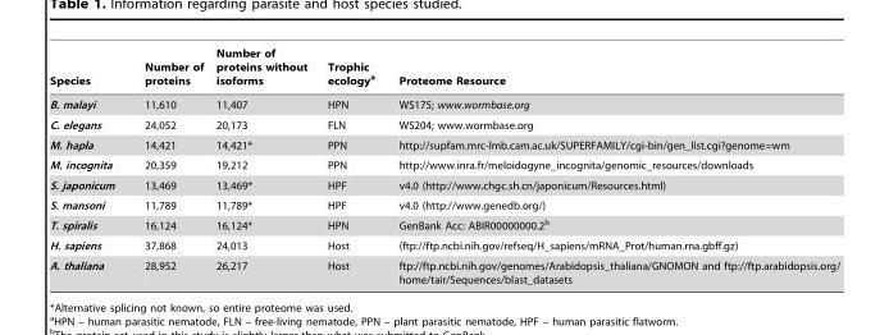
<table><thead><tr><td>Species</td><td>Number of proteins</td><td>Number of proteins without isoforms</td><td>Trophic ecology<sup>a</sup></td><td>Proteome Resource</td></tr></thead><tbody><tr><td>B. malayi</td><td>11,610</td><td>11,407</td><td>HPN</td><td>WS175; www.wormbase.org</td></tr><tr><td>C. elegans</td><td>24,052</td><td>20,173</td><td>FLN</td><td>WS204; www.wormbase.org</td></tr><tr><td>M. hapla</td><td>14,421</td><td>14,421*</td><td>PPN</td><td>http://supfam.mrc-lmb.cam.ac.uk/SUPERFAMILY/cgi-bin/gen_list.cgi?genome=wm</td></tr><tr><td>M. incognita</td><td>20,359</td><td>19,212</td><td>PPN</td><td>http://www.inra.fr/meloidogyne_incognita/genomic_resources/downloads</td></tr><tr><td>S. japonicum</td><td>13,469</td><td>13,469*</td><td>HPF</td><td>v4.0 (http://www.chgc.sh.cn/japonicum/Resources.html)</td></tr><tr><td>S. mansoni</td><td>11,789</td><td>11,789*</td><td>HPF</td><td>v4.0 (http://www.genedb.org/)</td></tr><tr><td>T. spiralis</td><td>16,124</td><td>16,124*</td><td>HPN</td><td>GenBank Acc: ABIR00000000.2<sup>b</sup></td></tr><tr><td>H. sapiens</td><td>37,868</td><td>24,013</td><td>Host</td><td>(ftp://ftp.ncbi.nih.gov/refseq/H_sapiens/mRNA_Prot/human.rna.gbff.gz)</td></tr><tr><td>A. thaliana</td><td>28,952</td><td>26,217</td><td>Host</td><td>ftp://ftp.ncbi.nih.gov/genomes/Arabidopsis_thaliana/GNOMON and ftp://ftp.arabidopsis.org/ home/tair/Sequences/blast_datasets</td></tr></tbody></table>